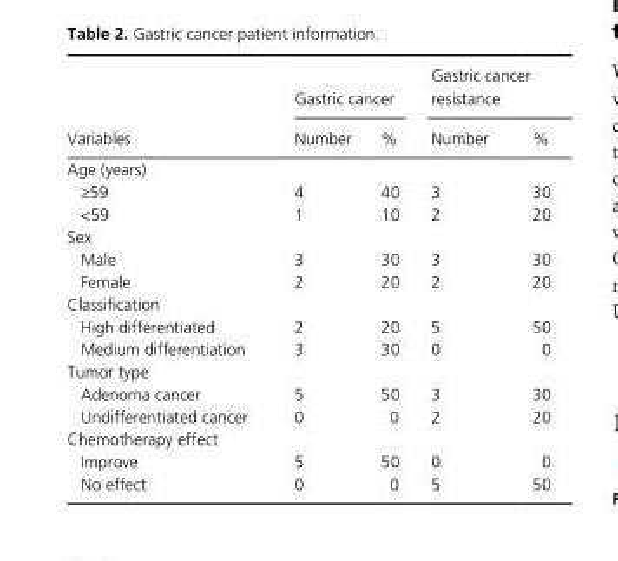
<table><thead><tr><td rowspan="2">Variables</td><td colspan="2">Gastric cancer</td><td colspan="2">Gastric cancer resistance</td></tr><tr><td>Number</td><td>%</td><td>Number</td><td>%</td></tr></thead><tbody><tr><td colspan="5">Age (years)</td></tr><tr><td>≥59</td><td>4</td><td>40</td><td>3</td><td>30</td></tr><tr><td>&lt;59</td><td>1</td><td>10</td><td>2</td><td>20</td></tr><tr><td colspan="5">Sex</td></tr><tr><td>Male</td><td>3</td><td>30</td><td>3</td><td>30</td></tr><tr><td>Female</td><td>2</td><td>20</td><td>2</td><td>20</td></tr><tr><td colspan="5">Classification</td></tr><tr><td>High differentiated</td><td>2</td><td>20</td><td>5</td><td>50</td></tr><tr><td>Medium differentiation</td><td>3</td><td>30</td><td>0</td><td>0</td></tr><tr><td colspan="5">Tumor type</td></tr><tr><td>Adenoma cancer</td><td>5</td><td>50</td><td>3</td><td>30</td></tr><tr><td>Undifferentiated cancer</td><td>0</td><td>0</td><td>2</td><td>20</td></tr><tr><td colspan="5">Chemotherapy effect</td></tr><tr><td>Improve</td><td>5</td><td>50</td><td>0</td><td>0</td></tr><tr><td>No effect</td><td>0</td><td>0</td><td>5</td><td>50</td></tr></tbody></table>